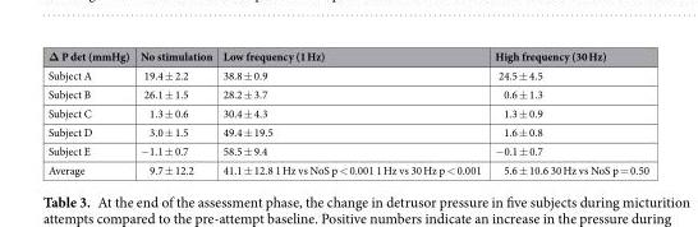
<table><thead><tr><td>Δ P det (mmHg)</td><td>No stimulation</td><td>Low frequency (1 Hz)</td><td>High frequency (30 Hz)</td></tr></thead><tbody><tr><td>Subject A</td><td>19.4 ± 2.2</td><td>38.8 ± 0.9</td><td>24.5 ± 4.5</td></tr><tr><td>Subject B</td><td>26.1 ± 1.5</td><td>28.2 ± 3.7</td><td>0.6 ± 1.3</td></tr><tr><td>Subject C</td><td>1.3 ± 0.6</td><td>30.4 ± 4.3</td><td>1.3 ± 0.9</td></tr><tr><td>Subject D</td><td>3.0 ± 1.5</td><td>49.4 ± 19.5</td><td>1.6 ± 0.8</td></tr><tr><td>Subject E</td><td>−1.1 ± 0.7</td><td>58.5 ± 9.4</td><td>−0.1 ± 0.7</td></tr><tr><td>Average</td><td>9.7 ± 12.2</td><td>41.1 ± 12.8 1 Hz vs NoS p &lt; 0.001 1 Hz vs 30 Hz p &lt; 0.001</td><td>5.6 ± 10.6 30 Hz vs NoS p = 0.50</td></tr></tbody></table>